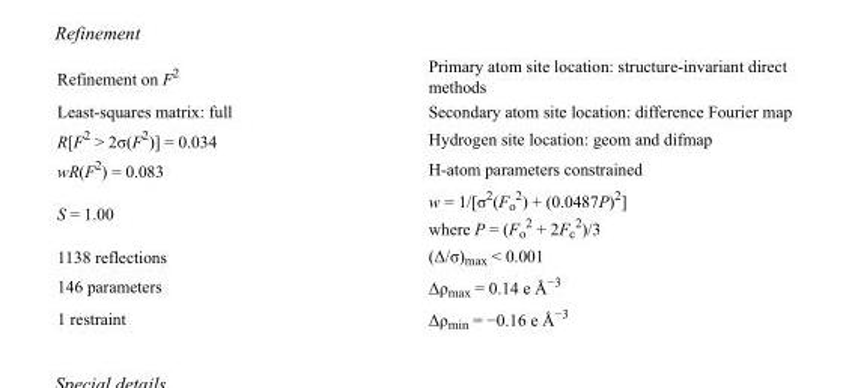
<table><tbody><tr><td>Refinement on F<sup>2</sup></td><td>Primary atom site location: structure-invariant direct methods</td></tr><tr><td>Least-squares matrix: full</td><td>Secondary atom site location: difference Fourier map</td></tr><tr><td>R[F<sup>2</sup> &gt; 2σ(F<sup>2</sup>)] = 0.034</td><td>Hydrogen site location: geom and difmap</td></tr><tr><td>wR(F<sup>2</sup>) = 0.083</td><td>H-atom parameters constrained</td></tr><tr><td>S = 1.00</td><td>w = 1/[σ<sup>2</sup>(F<sub>o</sub> <sup>2</sup>) + (0.0487P)<sup>2</sup>] where P = (F<sub>o</sub> <sup>2</sup> + 2F<sub>c</sub> <sup>2</sup>)/3</td></tr><tr><td>1138 reflections</td><td>(Δ/σ)<sub>max</sub> &lt; 0.001</td></tr><tr><td>146 parameters</td><td>Δρ<sub>max</sub> = 0.14 e Å<sup>−3</sup></td></tr><tr><td>1 restraint</td><td>Δρ<sub>min</sub> = −0.16 e Å<sup>−3</sup></td></tr></tbody></table>